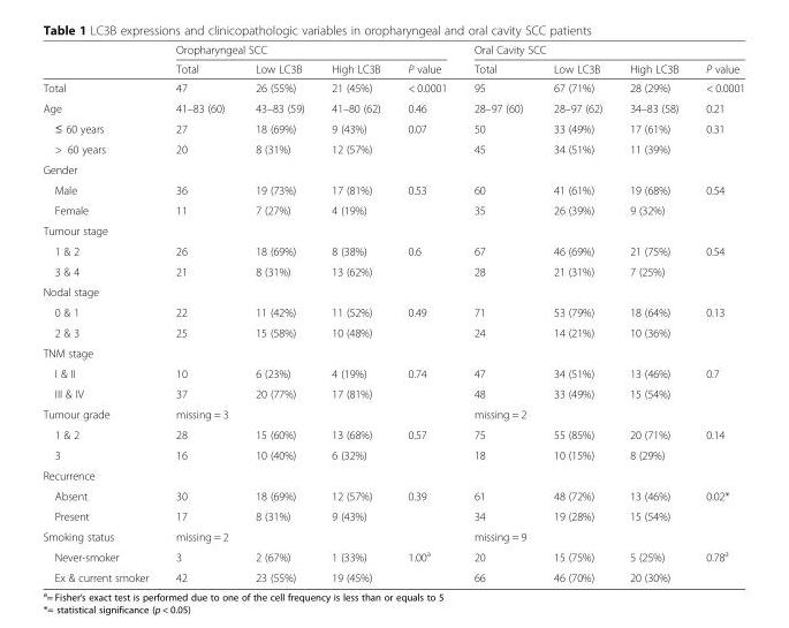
<table><thead><tr><td rowspan="2"></td><td colspan="4">Oropharyngeal SCC</td><td colspan="4">Oral Cavity SCC</td></tr><tr><td>Total</td><td>Low LC3B</td><td>High LC3B</td><td>P value</td><td>Total</td><td>Low LC3B</td><td>High LC3B</td><td>P value</td></tr></thead><tbody><tr><td>Total</td><td>47</td><td>26 (55%)</td><td>21 (45%)</td><td>&lt; 0.0001</td><td>95</td><td>67 (71%)</td><td>28 (29%)</td><td>&lt; 0.0001</td></tr><tr><td>Age</td><td>41–83 (60)</td><td>43–83 (59)</td><td>41–80 (62)</td><td>0.46</td><td>28–97 (60)</td><td>28–97 (62)</td><td>34–83 (58)</td><td>0.21</td></tr><tr><td>≤ 60 years</td><td>27</td><td>18 (69%)</td><td>9 (43%)</td><td>0.07</td><td>50</td><td>33 (49%)</td><td>17 (61%)</td><td>0.31</td></tr><tr><td>&gt; 60 years</td><td>20</td><td>8 (31%)</td><td>12 (57%)</td><td></td><td>45</td><td>34 (51%)</td><td>11 (39%)</td><td></td></tr><tr><td colspan="9">Gender</td></tr><tr><td>Male</td><td>36</td><td>19 (73%)</td><td>17 (81%)</td><td>0.53</td><td>60</td><td>41 (61%)</td><td>19 (68%)</td><td>0.54</td></tr><tr><td>Female</td><td>11</td><td>7 (27%)</td><td>4 (19%)</td><td></td><td>35</td><td>26 (39%)</td><td>9 (32%)</td><td></td></tr><tr><td colspan="9">Tumour stage</td></tr><tr><td>1 &amp; 2</td><td>26</td><td>18 (69%)</td><td>8 (38%)</td><td>0.6</td><td>67</td><td>46 (69%)</td><td>21 (75%)</td><td>0.54</td></tr><tr><td>3 &amp; 4</td><td>21</td><td>8 (31%)</td><td>13 (62%)</td><td></td><td>28</td><td>21 (31%)</td><td>7 (25%)</td><td></td></tr><tr><td colspan="9">Nodal stage</td></tr><tr><td>0 &amp; 1</td><td>22</td><td>11 (42%)</td><td>11 (52%)</td><td>0.49</td><td>71</td><td>53 (79%)</td><td>18 (64%)</td><td>0.13</td></tr><tr><td>2 &amp; 3</td><td>25</td><td>15 (58%)</td><td>10 (48%)</td><td></td><td>24</td><td>14 (21%)</td><td>10 (36%)</td><td></td></tr><tr><td colspan="9">TNM stage</td></tr><tr><td>I &amp; II</td><td>10</td><td>6 (23%)</td><td>4 (19%)</td><td>0.74</td><td>47</td><td>34 (51%)</td><td>13 (46%)</td><td>0.7</td></tr><tr><td>III &amp; IV</td><td>37</td><td>20 (77%)</td><td>17 (81%)</td><td></td><td>48</td><td>33 (49%)</td><td>15 (54%)</td><td></td></tr><tr><td>Tumour grade</td><td>missing = 3</td><td></td><td></td><td></td><td>missing = 2</td><td></td><td></td><td></td></tr><tr><td>1 &amp; 2</td><td>28</td><td>15 (60%)</td><td>13 (68%)</td><td>0.57</td><td>75</td><td>55 (85%)</td><td>20 (71%)</td><td>0.14</td></tr><tr><td>3</td><td>16</td><td>10 (40%)</td><td>6 (32%)</td><td></td><td>18</td><td>10 (15%)</td><td>8 (29%)</td><td></td></tr><tr><td colspan="9">Recurrence</td></tr><tr><td>Absent</td><td>30</td><td>18 (69%)</td><td>12 (57%)</td><td>0.39</td><td>61</td><td>48 (72%)</td><td>13 (46%)</td><td>0.02*</td></tr><tr><td>Present</td><td>17</td><td>8 (31%)</td><td>9 (43%)</td><td></td><td>34</td><td>19 (28%)</td><td>15 (54%)</td><td></td></tr><tr><td>Smoking status</td><td>missing = 2</td><td></td><td></td><td></td><td>missing = 9</td><td></td><td></td><td></td></tr><tr><td>Never-smoker</td><td>3</td><td>2 (67%)</td><td>1 (33%)</td><td>1.00<sup>a</sup></td><td>20</td><td>15 (75%)</td><td>5 (25%)</td><td>0.78<sup>a</sup></td></tr><tr><td>Ex &amp; current smoker</td><td>42</td><td>23 (55%)</td><td>19 (45%)</td><td></td><td>66</td><td>46 (70%)</td><td>20 (30%)</td><td></td></tr></tbody></table>